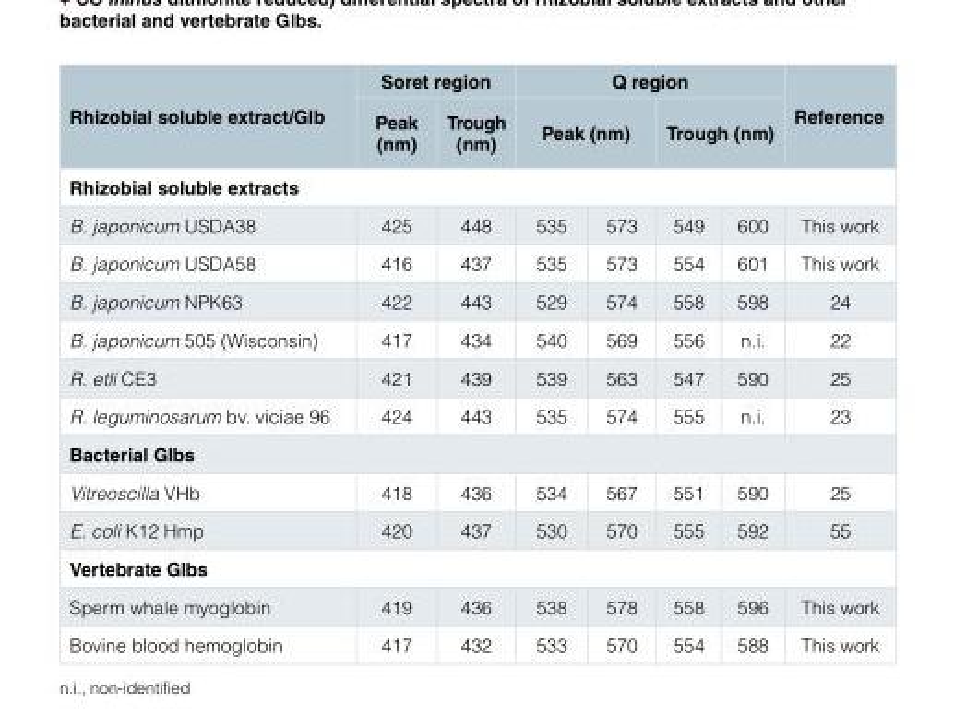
<table><thead><tr><td rowspan="2">Rhizobial soluble extract/Glb</td><td colspan="2">Soret region</td><td colspan="4">Q region</td><td rowspan="2">Reference</td></tr><tr><td>Peak (nm)</td><td>Trough (nm)</td><td colspan="2">Peak (nm)</td><td colspan="2">Trough (nm)</td></tr><tr><td colspan="8">Rhizobial soluble extracts</td></tr><tr><td>B. japonicum USDA38</td><td>425</td><td>448</td><td>535</td><td>573</td><td>549</td><td>600</td><td>This work</td></tr></thead><tbody><tr><td>B. japonicum USDA58</td><td>416</td><td>437</td><td>535</td><td>573</td><td>554</td><td>601</td><td>This work</td></tr><tr><td>B. japonicum NPK63</td><td>422</td><td>443</td><td>529</td><td>574</td><td>558</td><td>598</td><td>24</td></tr><tr><td>B. japonicum 505 (Wisconsin)</td><td>417</td><td>434</td><td>540</td><td>569</td><td>556</td><td>n.i.</td><td>22</td></tr><tr><td>R. etli CE3</td><td>421</td><td>439</td><td>539</td><td>563</td><td>547</td><td>590</td><td>25</td></tr><tr><td>R. leguminosarum bv. viciae 96</td><td>424</td><td>443</td><td>535</td><td>574</td><td>555</td><td>n.i.</td><td>23</td></tr><tr><td colspan="8">Bacterial Glbs</td></tr><tr><td>Vitreoscilla VHb</td><td>418</td><td>436</td><td>534</td><td>567</td><td>551</td><td>590</td><td>25</td></tr><tr><td>E. coli K12 Hmp</td><td>420</td><td>437</td><td>530</td><td>570</td><td>555</td><td>592</td><td>55</td></tr><tr><td colspan="8">Vertebrate Glbs</td></tr><tr><td>Sperm whale myoglobin</td><td>419</td><td>436</td><td>538</td><td>578</td><td>558</td><td>596</td><td>This work</td></tr><tr><td>Bovine blood hemoglobin</td><td>417</td><td>432</td><td>533</td><td>570</td><td>554</td><td>588</td><td>This work</td></tr></tbody></table>